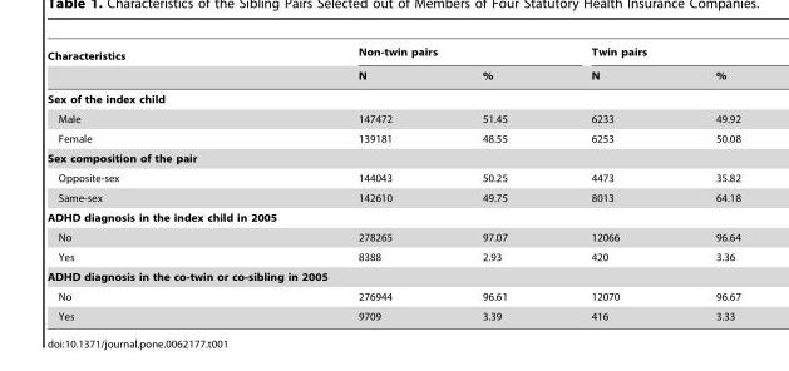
<table><thead><tr><td rowspan="2">Characteristics</td><td colspan="2">Non-twin pairs</td><td colspan="2">Twin pairs</td></tr><tr><td>N</td><td>%</td><td>N</td><td>%</td></tr></thead><tbody><tr><td colspan="5">Sex of the index child</td></tr><tr><td>Male</td><td>147472</td><td>51.45</td><td>6233</td><td>49.92</td></tr><tr><td>Female</td><td>139181</td><td>48.55</td><td>6253</td><td>50.08</td></tr><tr><td colspan="5">Sex composition of the pair</td></tr><tr><td>Opposite-sex</td><td>144043</td><td>50.25</td><td>4473</td><td>35.82</td></tr><tr><td>Same-sex</td><td>142610</td><td>49.75</td><td>8013</td><td>64.18</td></tr><tr><td colspan="5">ADHD diagnosis in the index child in 2005</td></tr><tr><td>No</td><td>278265</td><td>97.07</td><td>12066</td><td>96.64</td></tr><tr><td>Yes</td><td>8388</td><td>2.93</td><td>420</td><td>3.36</td></tr><tr><td colspan="5">ADHD diagnosis in the co-twin or co-sibling in 2005</td></tr><tr><td>No</td><td>276944</td><td>96.61</td><td>12070</td><td>96.67</td></tr><tr><td>Yes</td><td>9709</td><td>3.39</td><td>416</td><td>3.33</td></tr></tbody></table>